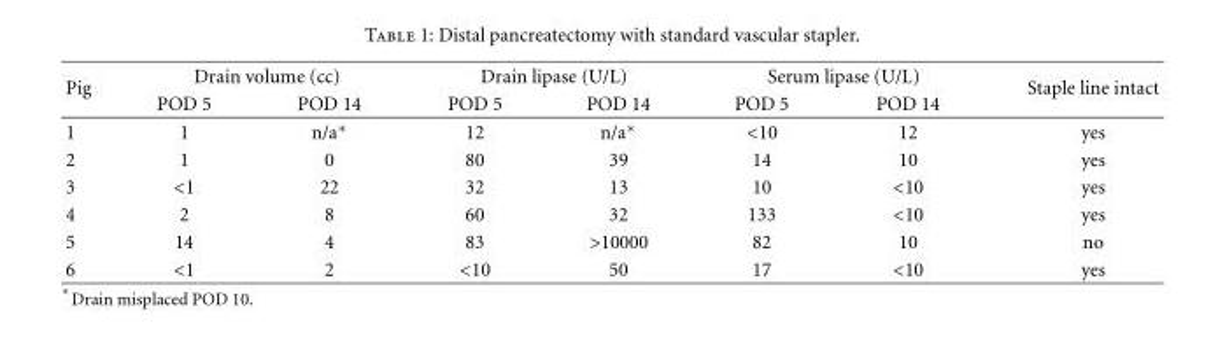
<table><thead><tr><td rowspan="2">Pig</td><td colspan="2">Drain volume (cc)</td><td colspan="2">Drain lipase (U/L)</td><td colspan="2">Serum lipase (U/L)</td><td rowspan="2">Staple line intact</td></tr><tr><td>POD 5</td><td>POD 14</td><td>POD 5</td><td>POD 14</td><td>POD 5</td><td>POD 14</td></tr></thead><tbody><tr><td>1</td><td>1</td><td>n/a∗</td><td>12</td><td>n/a∗</td><td>&lt;10</td><td>12</td><td>yes</td></tr><tr><td>2</td><td>1</td><td>0</td><td>80</td><td>39</td><td>14</td><td>10</td><td>yes</td></tr><tr><td>3</td><td>&lt;1</td><td>22</td><td>32</td><td>13</td><td>10</td><td>&lt;10</td><td>yes</td></tr><tr><td>4</td><td>2</td><td>8</td><td>60</td><td>32</td><td>133</td><td>&lt;10</td><td>yes</td></tr><tr><td>5</td><td>14</td><td>4</td><td>83</td><td>&gt;10000</td><td>82</td><td>10</td><td>no</td></tr><tr><td>6</td><td>&lt;1</td><td>2</td><td>&lt;10</td><td>50</td><td>17</td><td>&lt;10</td><td>yes</td></tr></tbody></table>